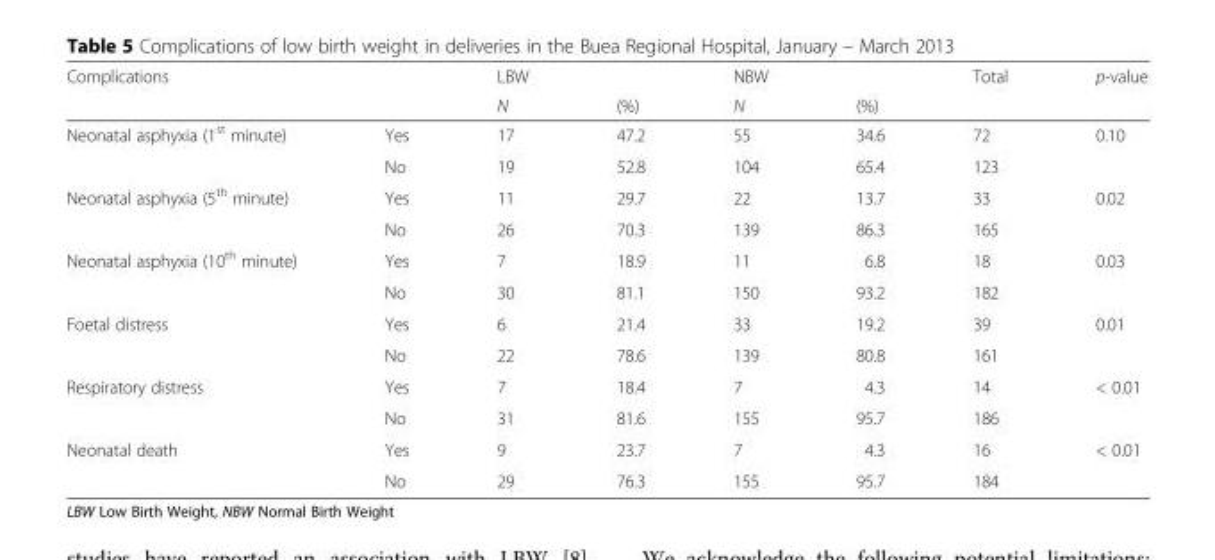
<table><thead><tr><td rowspan="2">Complications</td><td rowspan="2"></td><td rowspan="2">LBW N</td><td rowspan="2">(%)</td><td rowspan="2">NBW N</td><td rowspan="2">(%)</td><td rowspan="2">Total</td><td rowspan="2">p-value</td></tr><tr></tr></thead><tbody><tr><td rowspan="2">Neonatal asphyxia (1<sup>st</sup> minute)</td><td>Yes</td><td>17</td><td>47.2</td><td>55</td><td>34.6</td><td>72</td><td>0.10</td></tr><tr><td>No</td><td>19</td><td>52.8</td><td>104</td><td>65.4</td><td>123</td><td></td></tr><tr><td rowspan="2">Neonatal asphyxia (5<sup>th</sup> minute)</td><td>Yes</td><td>11</td><td>29.7</td><td>22</td><td>13.7</td><td>33</td><td>0.02</td></tr><tr><td>No</td><td>26</td><td>70.3</td><td>139</td><td>86.3</td><td>165</td><td></td></tr><tr><td rowspan="2">Neonatal asphyxia (10<sup>th</sup> minute)</td><td>Yes</td><td>7</td><td>18.9</td><td>11</td><td>6.8</td><td>18</td><td>0.03</td></tr><tr><td>No</td><td>30</td><td>81.1</td><td>150</td><td>93.2</td><td>182</td><td></td></tr><tr><td rowspan="2">Foetal distress</td><td>Yes</td><td>6</td><td>21.4</td><td>33</td><td>19.2</td><td>39</td><td>0.01</td></tr><tr><td>No</td><td>22</td><td>78.6</td><td>139</td><td>80.8</td><td>161</td><td></td></tr><tr><td rowspan="2">Respiratory distress</td><td>Yes</td><td>7</td><td>18.4</td><td>7</td><td>4.3</td><td>14</td><td>&lt; 0.01</td></tr><tr><td>No</td><td>31</td><td>81.6</td><td>155</td><td>95.7</td><td>186</td><td></td></tr><tr><td rowspan="2">Neonatal death</td><td>Yes</td><td>9</td><td>23.7</td><td>7</td><td>4.3</td><td>16</td><td>&lt; 0.01</td></tr><tr><td>No</td><td>29</td><td>76.3</td><td>155</td><td>95.7</td><td>184</td><td></td></tr></tbody></table>